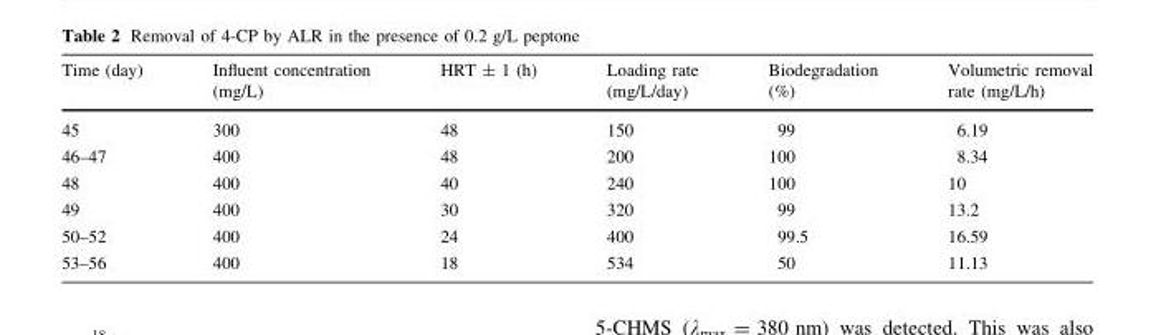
<table><thead><tr><td>Time (day)</td><td>Influent concentration (mg/L)</td><td>HRT ± 1 (h)</td><td>Loading rate (mg/L/day)</td><td>Biodegradation (%)</td><td>Volumetric removal rate (mg/L/h)</td></tr></thead><tbody><tr><td>45</td><td>300</td><td>48</td><td>150</td><td>99</td><td>6.19</td></tr><tr><td>46–47</td><td>400</td><td>48</td><td>200</td><td>100</td><td>8.34</td></tr><tr><td>48</td><td>400</td><td>40</td><td>240</td><td>100</td><td>10</td></tr><tr><td>49</td><td>400</td><td>30</td><td>320</td><td>99</td><td>13.2</td></tr><tr><td>50–52</td><td>400</td><td>24</td><td>400</td><td>99.5</td><td>16.59</td></tr><tr><td>53–56</td><td>400</td><td>18</td><td>534</td><td>50</td><td>11.13</td></tr></tbody></table>